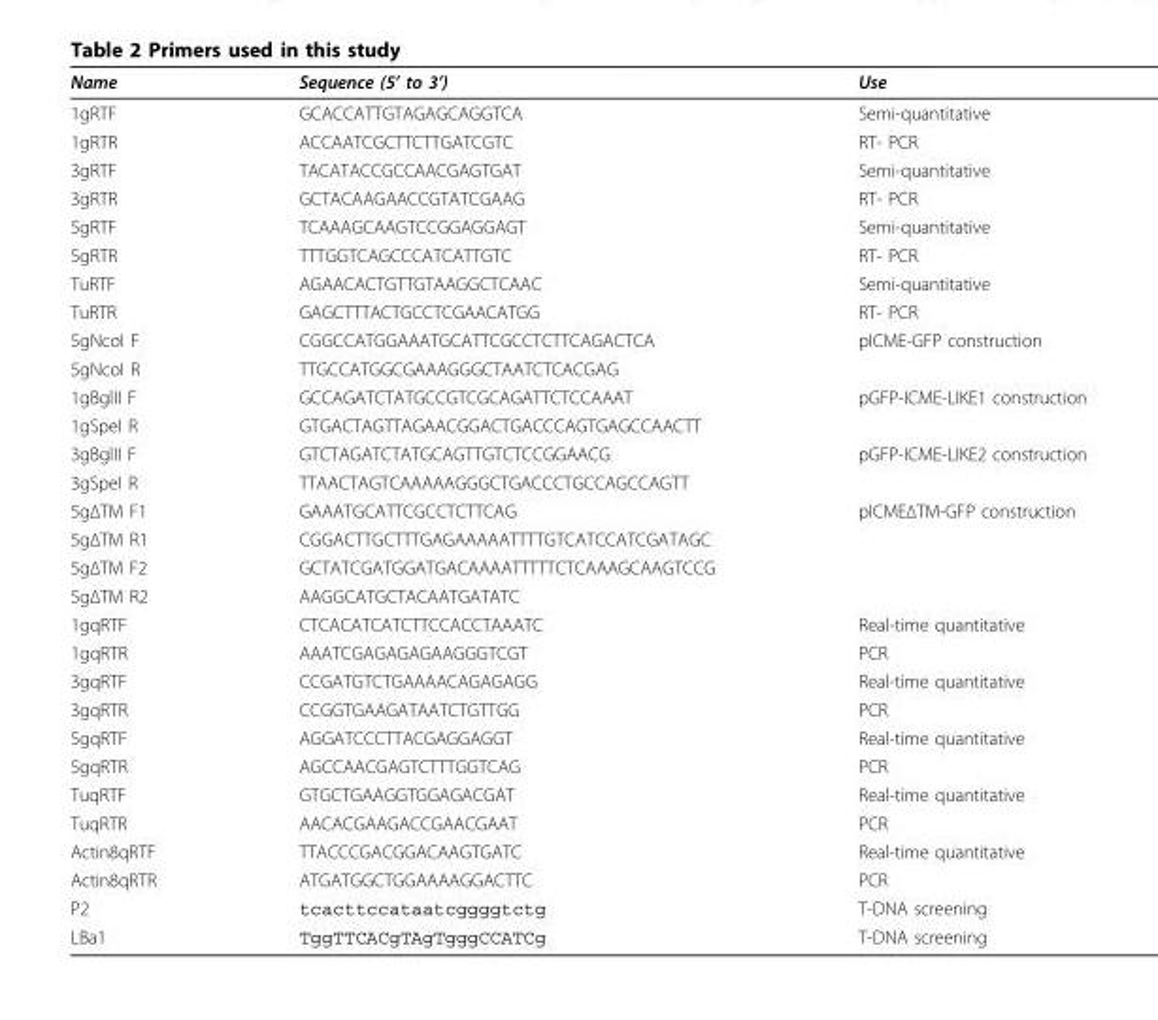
<table><thead><tr><td>Name</td><td>Sequence (5’ to 3’)</td><td>Use</td></tr></thead><tbody><tr><td>1gRTF</td><td>GCACCATTGTAGAGCAGGTCA</td><td>Semi-quantitative</td></tr><tr><td>1gRTR</td><td>ACCAATCGCTTCTTGATCGTC</td><td>RT- PCR</td></tr><tr><td>3gRTF</td><td>TACATACCGCCAACGAGTGAT</td><td>Semi-quantitative</td></tr><tr><td>3gRTR</td><td>GCTACAAGAACCGTATCGAAG</td><td>RT- PCR</td></tr><tr><td>5gRTF</td><td>TCAAAGCAAGTCCGGAGGAGT</td><td>Semi-quantitative</td></tr><tr><td>5gRTR</td><td>TTTGGTCAGCCCATCATTGTC</td><td>RT- PCR</td></tr><tr><td>TuRTF</td><td>AGAACACTGTTGTAAGGCTCAAC</td><td>Semi-quantitative</td></tr><tr><td>TuRTR</td><td>GAGCTTTACTGCCTCGAACATGG</td><td>RT- PCR</td></tr><tr><td>5gNcoI F</td><td>CGGCCATGGAAATGCATTCGCCTCTTCAGACTCA</td><td>pICME-GFP construction</td></tr><tr><td>5gNcoI R</td><td>TTGCCATGGCGAAAGGGCTAATCTCACGAG</td><td></td></tr><tr><td>1gBglII F</td><td>GCCAGATCTATGCCGTCGCAGATTCTCCAAAT</td><td>pGFP-ICME-LIKE1 construction</td></tr><tr><td>1gSpeI R</td><td>GTGACTAGTTAGAACGGACTGACCCAGTGAGCCAACTT</td><td></td></tr><tr><td>3gBglII F</td><td>GTCTAGATCTATGCAGTTGTCTCCGGAACG</td><td>pGFP-ICME-LIKE2 construction</td></tr><tr><td>3gSpeI R</td><td>TTAACTAGTCAAAAAGGGCTGACCCTGCCAGCCAGTT</td><td></td></tr><tr><td>5gΔTM F1</td><td>GAAATGCATTCGCCTCTTCAG</td><td>pICMEΔTM-GFP construction</td></tr><tr><td>5gΔTM R1</td><td>CGGACTTGCTTTGAGAAAAATTTTGTCATCCATCGATAGC</td><td></td></tr><tr><td>5gΔTM F2</td><td>GCTATCGATGGATGACAAAATTTTTCTCAAAGCAAGTCCG</td><td></td></tr><tr><td>5gΔTM R2</td><td>AAGGCATGCTACAATGATATC</td><td></td></tr><tr><td>1gqRTF</td><td>CTCACATCATCTTCCACCTAAATC</td><td>Real-time quantitative</td></tr><tr><td>1gqRTR</td><td>AAATCGAGAGAGAAGGGTCGT</td><td>PCR</td></tr><tr><td>3gqRTF</td><td>CCGATGTCTGAAAACAGAGAGG</td><td>Real-time quantitative</td></tr><tr><td>3gqRTR</td><td>CCGGTGAAGATAATCTGTTGG</td><td>PCR</td></tr><tr><td>5gqRTF</td><td>AGGATCCCTTACGAGGAGGT</td><td>Real-time quantitative</td></tr><tr><td>5gqRTR</td><td>AGCCAACGAGTCTTTGGTCAG</td><td>PCR</td></tr><tr><td>TuqRTF</td><td>GTGCTGAAGGTGGAGACGAT</td><td>Real-time quantitative</td></tr><tr><td>TuqRTR</td><td>AACACGAAGACCGAACGAAT</td><td>PCR</td></tr><tr><td>Actin8qRTF</td><td>TTACCCGACGGACAAGTGATC</td><td>Real-time quantitative</td></tr><tr><td>Actin8qRTR</td><td>ATGATGGCTGGAAAAGGACTTC</td><td>PCR</td></tr><tr><td>P2</td><td>tcacttccataatcggggtctg</td><td>T-DNA screening</td></tr><tr><td>LBa1</td><td>TggTTCACgTAgTgggCCATCg</td><td>T-DNA screening</td></tr></tbody></table>